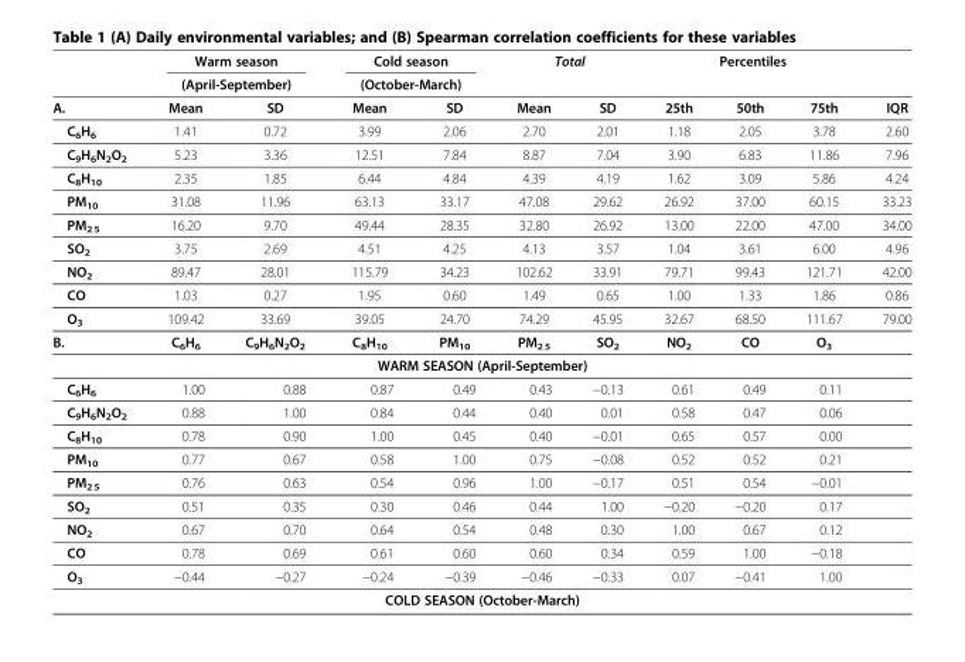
<table><thead><tr><td rowspan="3">A.</td><td rowspan="2" colspan="2">Warm season (April-September)</td><td rowspan="2" colspan="2">Cold season (October-March)</td><td rowspan="2" colspan="2">Total</td><td rowspan="2" colspan="3">Percentiles</td><td rowspan="3">IQR</td></tr><tr></tr><tr><td>Mean</td><td>SD</td><td>Mean</td><td>SD</td><td>Mean</td><td>SD</td><td>25th</td><td>50th</td><td>75th</td></tr></thead><tbody><tr><td>C<sub>6</sub>H<sub>6</sub></td><td>1.41</td><td>0.72</td><td>3.99</td><td>2.06</td><td>2.70</td><td>2.01</td><td>1.18</td><td>2.05</td><td>3.78</td><td>2.60</td></tr><tr><td>C<sub>9</sub>H<sub>6</sub>N<sub>2</sub>O<sub>2</sub></td><td>5.23</td><td>3.36</td><td>12.51</td><td>7.84</td><td>8.87</td><td>7.04</td><td>3.90</td><td>6.83</td><td>11.86</td><td>7.96</td></tr><tr><td>C<sub>8</sub>H<sub>10</sub></td><td>2.35</td><td>1.85</td><td>6.44</td><td>4.84</td><td>4.39</td><td>4.19</td><td>1.62</td><td>3.09</td><td>5.86</td><td>4.24</td></tr><tr><td>PM<sub>10</sub></td><td>31.08</td><td>11.96</td><td>63.13</td><td>33.17</td><td>47.08</td><td>29.62</td><td>26.92</td><td>37.00</td><td>60.15</td><td>33.23</td></tr><tr><td>PM<sub>2.5</sub></td><td>16.20</td><td>9.70</td><td>49.44</td><td>28.35</td><td>32.80</td><td>26.92</td><td>13.00</td><td>22.00</td><td>47.00</td><td>34.00</td></tr><tr><td>SO<sub>2</sub></td><td>3.75</td><td>2.69</td><td>4.51</td><td>4.25</td><td>4.13</td><td>3.57</td><td>1.04</td><td>3.61</td><td>6.00</td><td>4.96</td></tr><tr><td>NO<sub>2</sub></td><td>89.47</td><td>28.01</td><td>115.79</td><td>34.23</td><td>102.62</td><td>33.91</td><td>79.71</td><td>99.43</td><td>121.71</td><td>42.00</td></tr><tr><td>CO</td><td>1.03</td><td>0.27</td><td>1.95</td><td>0.60</td><td>1.49</td><td>0.65</td><td>1.00</td><td>1.33</td><td>1.86</td><td>0.86</td></tr><tr><td>O<sub>3</sub></td><td>109.42</td><td>33.69</td><td>39.05</td><td>24.70</td><td>74.29</td><td>45.95</td><td>32.67</td><td>68.50</td><td>111.67</td><td>79.00</td></tr><tr><td>B.</td><td>C<sub>6</sub>H<sub>6</sub></td><td>C<sub>9</sub>H<sub>6</sub>N<sub>2</sub>O<sub>2</sub></td><td>C<sub>8</sub>H<sub>10</sub></td><td>PM<sub>10</sub></td><td>PM<sub>2.5</sub></td><td>SO<sub>2</sub></td><td>NO<sub>2</sub></td><td>CO</td><td>O<sub>3</sub></td><td></td></tr><tr><td colspan="11">WARM SEASON (April-September)</td></tr><tr><td>C<sub>6</sub>H<sub>6</sub></td><td>1.00</td><td>0.88</td><td>0.87</td><td>0.49</td><td>0.43</td><td>−0.13</td><td>0.61</td><td>0.49</td><td>0.11</td><td></td></tr><tr><td>C<sub>9</sub>H<sub>6</sub>N<sub>2</sub>O<sub>2</sub></td><td>0.88</td><td>1.00</td><td>0.84</td><td>0.44</td><td>0.40</td><td>0.01</td><td>0.58</td><td>0.47</td><td>0.06</td><td></td></tr><tr><td>C<sub>8</sub>H<sub>10</sub></td><td>0.78</td><td>0.90</td><td>1.00</td><td>0.45</td><td>0.40</td><td>−0.01</td><td>0.65</td><td>0.57</td><td>0.00</td><td></td></tr><tr><td>PM<sub>10</sub></td><td>0.77</td><td>0.67</td><td>0.58</td><td>1.00</td><td>0.75</td><td>−0.08</td><td>0.52</td><td>0.52</td><td>0.21</td><td></td></tr><tr><td>PM<sub>2.5</sub></td><td>0.76</td><td>0.63</td><td>0.54</td><td>0.96</td><td>1.00</td><td>−0.17</td><td>0.51</td><td>0.54</td><td>−0.01</td><td></td></tr><tr><td>SO<sub>2</sub></td><td>0.51</td><td>0.35</td><td>0.30</td><td>0.46</td><td>0.44</td><td>1.00</td><td>−0.20</td><td>−0.20</td><td>0.17</td><td></td></tr><tr><td>NO<sub>2</sub></td><td>0.67</td><td>0.70</td><td>0.64</td><td>0.54</td><td>0.48</td><td>0.30</td><td>1.00</td><td>0.67</td><td>0.12</td><td></td></tr><tr><td>CO</td><td>0.78</td><td>0.69</td><td>0.61</td><td>0.60</td><td>0.60</td><td>0.34</td><td>0.59</td><td>1.00</td><td>−0.18</td><td></td></tr><tr><td>O<sub>3</sub></td><td>−0.44</td><td>−0.27</td><td>−0.24</td><td>−0.39</td><td>−0.46</td><td>−0.33</td><td>0.07</td><td>−0.41</td><td>1.00</td><td></td></tr><tr><td colspan="11">COLD SEASON (October-March)</td></tr></tbody></table>